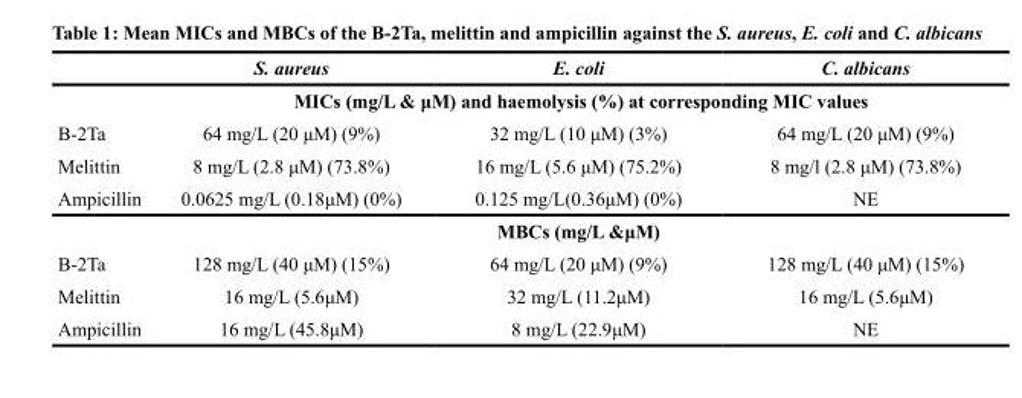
<table><thead><tr><td></td><td>S. aureus</td><td>E. coli</td><td>C. albicans</td></tr></thead><tbody><tr><td></td><td colspan="3">MICs (mg/L &amp; μM) and haemolysis (%) at corresponding MIC values</td></tr><tr><td>B-2Ta</td><td>64 mg/L (20 μM) (9%)</td><td>32 mg/L (10 μM) (3%)</td><td>64 mg/L (20 μM) (9%)</td></tr><tr><td>Melittin</td><td>8 mg/L (2.8 μM) (73.8%)</td><td>16 mg/L (5.6 μM) (75.2%)</td><td>8 mg/l (2.8 μM) (73.8%)</td></tr><tr><td rowspan="2">Ampicillin</td><td>0.0625 mg/L (0.18μM) (0%)</td><td>0.125 mg/L(0.36μM) (0%)</td><td>NE</td></tr><tr><td></td><td>MBCs (mg/L &amp;μM)</td><td></td></tr><tr><td>B-2Ta</td><td>128 mg/L (40 μM) (15%)</td><td>64 mg/L (20 μM) (9%)</td><td>128 mg/L (40 μM) (15%)</td></tr><tr><td>Melittin</td><td>16 mg/L (5.6μM)</td><td>32 mg/L (11.2μM)</td><td>16 mg/L (5.6μM)</td></tr><tr><td>Ampicillin</td><td>16 mg/L (45.8μM)</td><td>8 mg/L (22.9μM)</td><td>NE</td></tr></tbody></table>